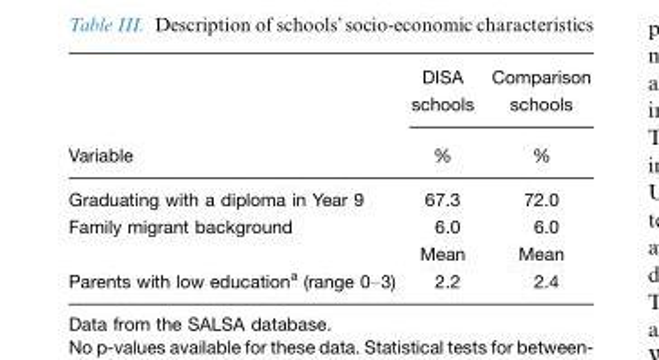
<table><thead><tr><td rowspan="2">Variable</td><td rowspan="2">DISA schools %</td><td rowspan="2">Comparison schools %</td></tr><tr></tr></thead><tbody><tr><td>Graduating with a diploma in Year 9</td><td>67.3</td><td>72.0</td></tr><tr><td rowspan="2">Family migrant background</td><td>6.0</td><td>6.0</td></tr><tr><td>Mean</td><td>Mean</td></tr><tr><td>Parents with low education<sup>a</sup> (range 0–3)</td><td>2.2</td><td>2.4</td></tr></tbody></table>